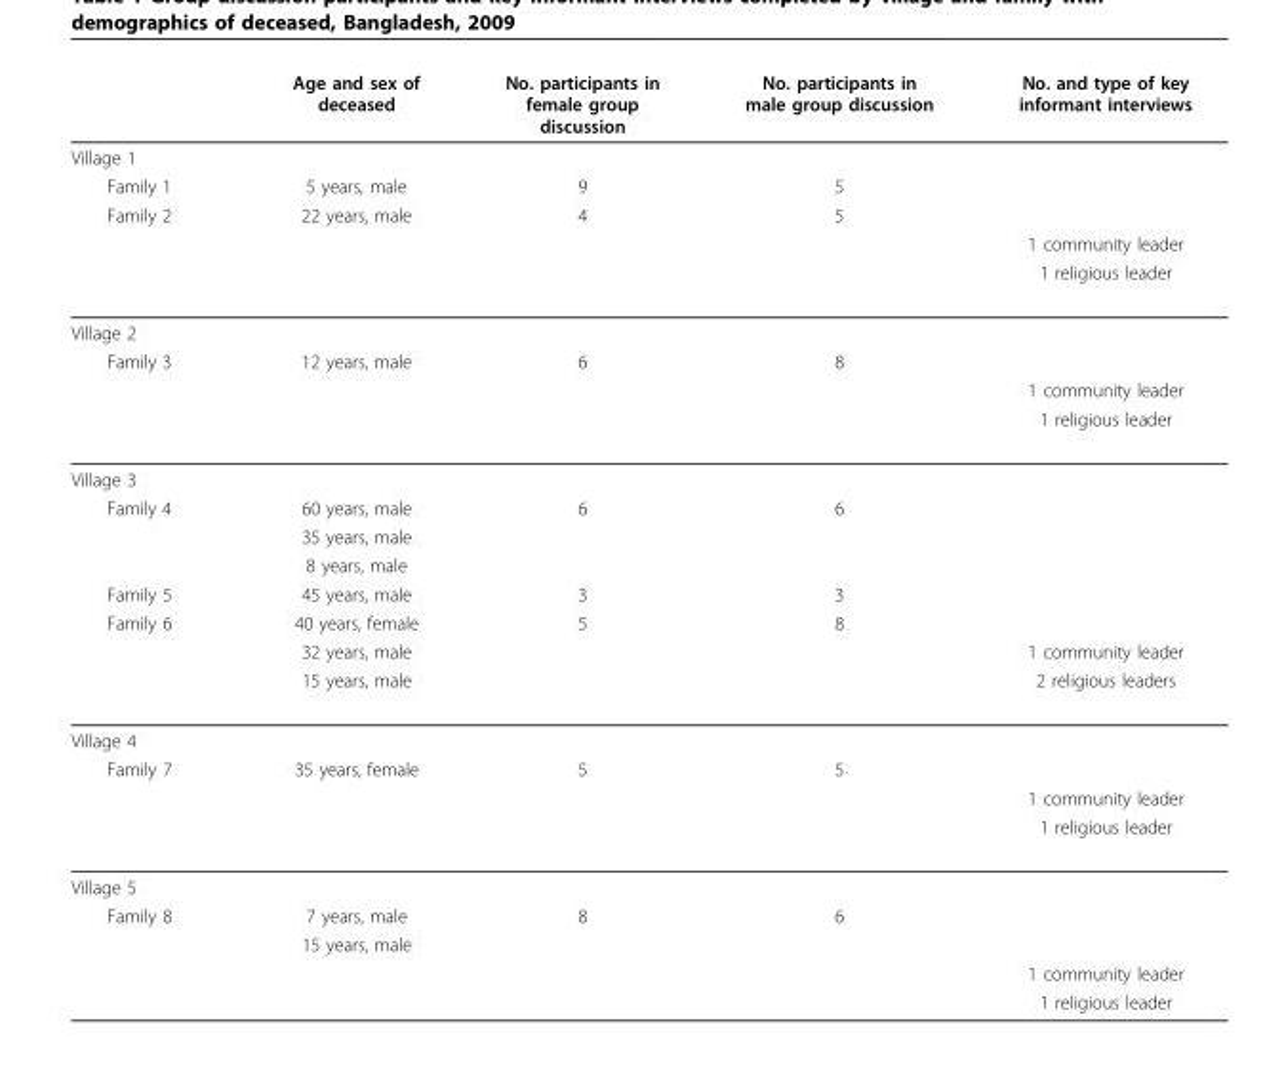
<table><thead><tr><td></td><td>Age and sex of deceased</td><td>No. participants in female group discussion</td><td>No. participants in male group discussion</td><td>No. and type of key informant interviews</td></tr></thead><tbody><tr><td colspan="5">Village 1</td></tr><tr><td>Family 1</td><td>5 years, male</td><td>9</td><td>5</td><td></td></tr><tr><td rowspan="3">Family 2</td><td>22 years, male</td><td>4</td><td>5</td><td></td></tr><tr><td></td><td></td><td></td><td>1 community leader</td></tr><tr><td></td><td></td><td></td><td>1 religious leader</td></tr><tr><td colspan="5">Village 2</td></tr><tr><td rowspan="3">Family 3</td><td>12 years, male</td><td>6</td><td>8</td><td></td></tr><tr><td></td><td></td><td></td><td>1 community leader</td></tr><tr><td></td><td></td><td></td><td>1 religious leader</td></tr><tr><td colspan="5">Village 3</td></tr><tr><td rowspan="3">Family 4</td><td>60 years, male</td><td>6</td><td>6</td><td></td></tr><tr><td>35 years, male</td><td></td><td></td><td></td></tr><tr><td>8 years, male</td><td></td><td></td><td></td></tr><tr><td>Family 5</td><td>45 years, male</td><td>3</td><td>3</td><td></td></tr><tr><td rowspan="3">Family 6</td><td>40 years, female</td><td>5</td><td>8</td><td></td></tr><tr><td>32 years, male</td><td></td><td></td><td>1 community leader</td></tr><tr><td>15 years, male</td><td></td><td></td><td>2 religious leaders</td></tr><tr><td colspan="5">Village 4</td></tr><tr><td rowspan="3">Family 7</td><td>35 years, female</td><td>5</td><td>5</td><td></td></tr><tr><td></td><td></td><td></td><td>1 community leader</td></tr><tr><td></td><td></td><td></td><td>1 religious leader</td></tr><tr><td colspan="5">Village 5</td></tr><tr><td rowspan="4">Family 8</td><td>7 years, male</td><td>8</td><td>6</td><td></td></tr><tr><td>15 years, male</td><td></td><td></td><td></td></tr><tr><td></td><td></td><td></td><td>1 community leader</td></tr><tr><td></td><td></td><td></td><td>1 religious leader</td></tr></tbody></table>